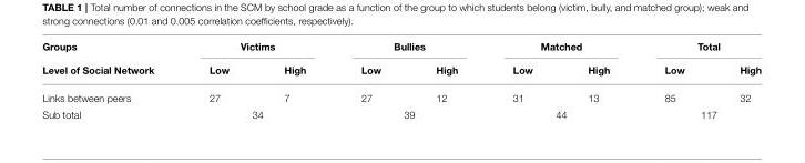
<table><thead><tr><td rowspan="2">Groups Level of Social Network</td><td colspan="2">Victims</td><td colspan="2">Bullies</td><td colspan="2">Matched</td><td colspan="2">Total</td></tr><tr><td>Low</td><td>High</td><td>Low</td><td>High</td><td>Low</td><td>High</td><td>Low</td><td>High</td></tr></thead><tbody><tr><td>Links between peers</td><td>27</td><td>7</td><td>27</td><td>12</td><td>31</td><td>13</td><td>85</td><td>32</td></tr><tr><td>Sub total</td><td colspan="2">34</td><td colspan="2">39</td><td colspan="2">44</td><td colspan="2">117</td></tr></tbody></table>